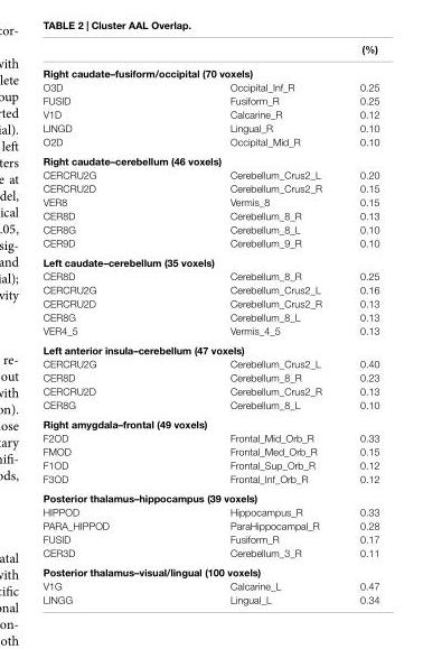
<table><thead><tr><td></td><td></td><td>(%)</td></tr></thead><tbody><tr><td colspan="3">right caudate–fusiform/occipital (70 voxels)</td></tr><tr><td>O3D</td><td>Occipital_Inf_R</td><td>0.25</td></tr><tr><td>FUSID</td><td>Fusiform_R</td><td>0.25</td></tr><tr><td>V1D</td><td>Calcarine_R</td><td>0.12</td></tr><tr><td>LINGD</td><td>Lingual_R</td><td>0.10</td></tr><tr><td>O2D</td><td>Occipital_Mid_R</td><td>0.10</td></tr><tr><td colspan="3">right caudate–cerebellum (46 voxels)</td></tr><tr><td>CERCRU2G</td><td>Cerebellum_Crus2_L</td><td>0.20</td></tr><tr><td>CERCRU2D</td><td>Cerebellum_Crus2_R</td><td>0.15</td></tr><tr><td>VER8</td><td>Vermis_8</td><td>0.15</td></tr><tr><td>CER8D</td><td>Cerebellum_8_R</td><td>0.13</td></tr><tr><td>CER8G</td><td>Cerebellum_8_L</td><td>0.10</td></tr><tr><td>CER9D</td><td>Cerebellum_9_R</td><td>0.10</td></tr><tr><td colspan="3">left caudate–cerebellum (35 voxels)</td></tr><tr><td>CER8D</td><td>Cerebellum_8_R</td><td>0.25</td></tr><tr><td>CERCRU2G</td><td>Cerebellum_Crus2_L</td><td>0.16</td></tr><tr><td>CERCRU2D</td><td>Cerebellum_Crus2_R</td><td>0.13</td></tr><tr><td>CER8G</td><td>Cerebellum_8_L</td><td>0.13</td></tr><tr><td>VER4_5</td><td>Vermis_4_5</td><td>0.13</td></tr><tr><td colspan="3">left anterior insula–cerebellum (47 voxels)</td></tr><tr><td>CERCRU2G</td><td>Cerebellum_Crus2_L</td><td>0.40</td></tr><tr><td>CER8D</td><td>Cerebellum_8_R</td><td>0.23</td></tr><tr><td>CERCRU2D</td><td>Cerebellum_Crus2_R</td><td>0.13</td></tr><tr><td>CER8G</td><td>Cerebellum_8_L</td><td>0.10</td></tr><tr><td colspan="3">right amygdala–frontal (49 voxels)</td></tr><tr><td>F2OD</td><td>Frontal_Mid_Orb_R</td><td>0.33</td></tr><tr><td>FMOD</td><td>Frontal_Med_Orb_R</td><td>0.15</td></tr><tr><td>F1OD</td><td>Frontal_Sup_Orb_R</td><td>0.12</td></tr><tr><td>F3OD</td><td>Frontal_Inf_Orb_R</td><td>0.12</td></tr><tr><td colspan="3">Posterior thalamus–hippocampus (39 voxels)</td></tr><tr><td>HIPPOD</td><td>Hippocampus_R</td><td>0.33</td></tr><tr><td>PARA_HIPPOD</td><td>ParaHippocampal_R</td><td>0.28</td></tr><tr><td>FUSID</td><td>Fusiform_R</td><td>0.17</td></tr><tr><td>CER3D</td><td>Cerebellum_3_R</td><td>0.11</td></tr><tr><td colspan="3">Posterior thalamus–visual/lingual (100 voxels)</td></tr><tr><td>V1G</td><td>Calcarine_L</td><td>0.47</td></tr><tr><td>LINGG</td><td>Lingual_L</td><td>0.34</td></tr></tbody></table>